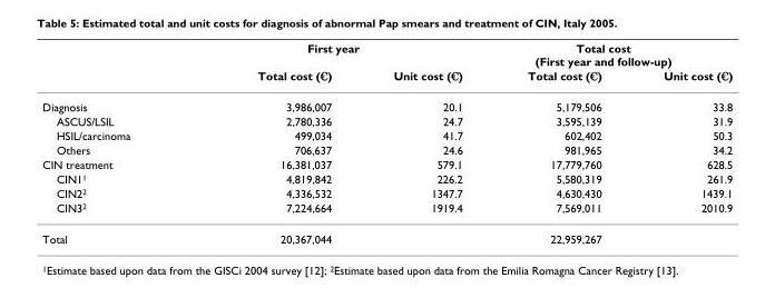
<table><thead><tr><td rowspan="2"></td><td colspan="2">First year</td><td colspan="2">Total cost (First year and follow-up)</td></tr><tr><td>Total cost (€)</td><td>Unit cost (€)</td><td>Total cost (€)</td><td>Unit cost (€)</td></tr></thead><tbody><tr><td>Diagnosis</td><td>3,986,007</td><td>20.1</td><td>5,179,506</td><td>33.8</td></tr><tr><td>ASCUS/LSIL</td><td>2,780,336</td><td>24.7</td><td>3,595,139</td><td>31.9</td></tr><tr><td>HSIL/carcinoma</td><td>499,034</td><td>41.7</td><td>602,402</td><td>50.3</td></tr><tr><td>Others</td><td>706,637</td><td>24.6</td><td>981,965</td><td>34.2</td></tr><tr><td>CIN treatment</td><td>16,381,037</td><td>579.1</td><td>17,779,760</td><td>628.5</td></tr><tr><td>CIN1<sup>1</sup></td><td>4,819,842</td><td>226.2</td><td>5,580,319</td><td>261.9</td></tr><tr><td>CIN2<sup>2</sup></td><td>4,336,532</td><td>1347.7</td><td>4,630,430</td><td>1439.1</td></tr><tr><td>CIN3<sup>2</sup></td><td>7,224,664</td><td>1919.4</td><td>7,569,011</td><td>2010.9</td></tr><tr><td>Total</td><td>20,367,044</td><td></td><td>22,959,267</td><td></td></tr></tbody></table>